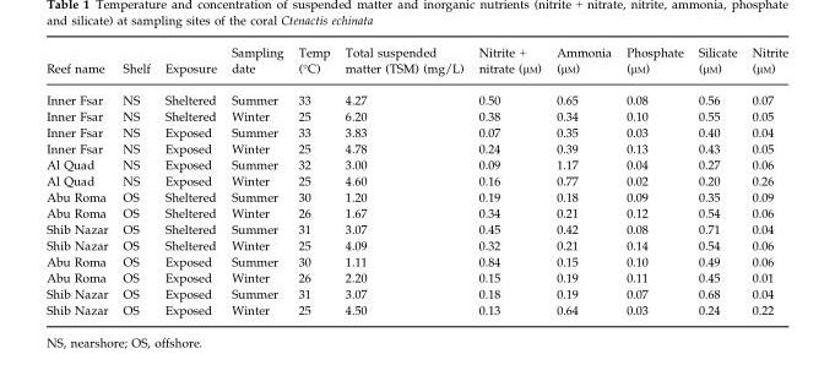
<table><thead><tr><td>Reef name</td><td>Shelf</td><td>Exposure</td><td>Sampling date</td><td>Temp (°C)</td><td>Total suspended matter (TSM) (mg/L)</td><td>Nitrite + nitrate (μM)</td><td>Ammonia (μM)</td><td>Phosphate (μM)</td><td>Silicate (μM)</td><td>Nitrite (μM)</td></tr></thead><tbody><tr><td>Inner Fsar</td><td>NS</td><td>Sheltered</td><td>Summer</td><td>33</td><td>4.27</td><td>0.50</td><td>0.65</td><td>0.08</td><td>0.56</td><td>0.07</td></tr><tr><td>Inner Fsar</td><td>NS</td><td>Sheltered</td><td>Winter</td><td>25</td><td>6.20</td><td>0.38</td><td>0.34</td><td>0.10</td><td>0.55</td><td>0.05</td></tr><tr><td>Inner Fsar</td><td>NS</td><td>Exposed</td><td>Summer</td><td>33</td><td>3.83</td><td>0.07</td><td>0.35</td><td>0.03</td><td>0.40</td><td>0.04</td></tr><tr><td>Inner Fsar</td><td>NS</td><td>Exposed</td><td>Winter</td><td>25</td><td>4.78</td><td>0.24</td><td>0.39</td><td>0.13</td><td>0.43</td><td>0.05</td></tr><tr><td>Al Quad</td><td>NS</td><td>Exposed</td><td>Summer</td><td>32</td><td>3.00</td><td>0.09</td><td>1.17</td><td>0.04</td><td>0.27</td><td>0.06</td></tr><tr><td>Al Quad</td><td>NS</td><td>Exposed</td><td>Winter</td><td>25</td><td>4.60</td><td>0.16</td><td>0.77</td><td>0.02</td><td>0.20</td><td>0.26</td></tr><tr><td>Abu Roma</td><td>OS</td><td>Sheltered</td><td>Summer</td><td>30</td><td>1.20</td><td>0.19</td><td>0.18</td><td>0.09</td><td>0.35</td><td>0.09</td></tr><tr><td>Abu Roma</td><td>OS</td><td>Sheltered</td><td>Winter</td><td>26</td><td>1.67</td><td>0.34</td><td>0.21</td><td>0.12</td><td>0.54</td><td>0.06</td></tr><tr><td>Shib Nazar</td><td>OS</td><td>Sheltered</td><td>Summer</td><td>31</td><td>3.07</td><td>0.45</td><td>0.42</td><td>0.08</td><td>0.71</td><td>0.04</td></tr><tr><td>Shib Nazar</td><td>OS</td><td>Sheltered</td><td>Winter</td><td>25</td><td>4.09</td><td>0.32</td><td>0.21</td><td>0.14</td><td>0.54</td><td>0.06</td></tr><tr><td>Abu Roma</td><td>OS</td><td>Exposed</td><td>Summer</td><td>30</td><td>1.11</td><td>0.84</td><td>0.15</td><td>0.10</td><td>0.49</td><td>0.06</td></tr><tr><td>Abu Roma</td><td>OS</td><td>Exposed</td><td>Winter</td><td>26</td><td>2.20</td><td>0.15</td><td>0.19</td><td>0.11</td><td>0.45</td><td>0.01</td></tr><tr><td>Shib Nazar</td><td>OS</td><td>Exposed</td><td>Summer</td><td>31</td><td>3.07</td><td>0.18</td><td>0.19</td><td>0.07</td><td>0.68</td><td>0.04</td></tr><tr><td>Shib Nazar</td><td>OS</td><td>Exposed</td><td>Winter</td><td>25</td><td>4.50</td><td>0.13</td><td>0.64</td><td>0.03</td><td>0.24</td><td>0.22</td></tr></tbody></table>